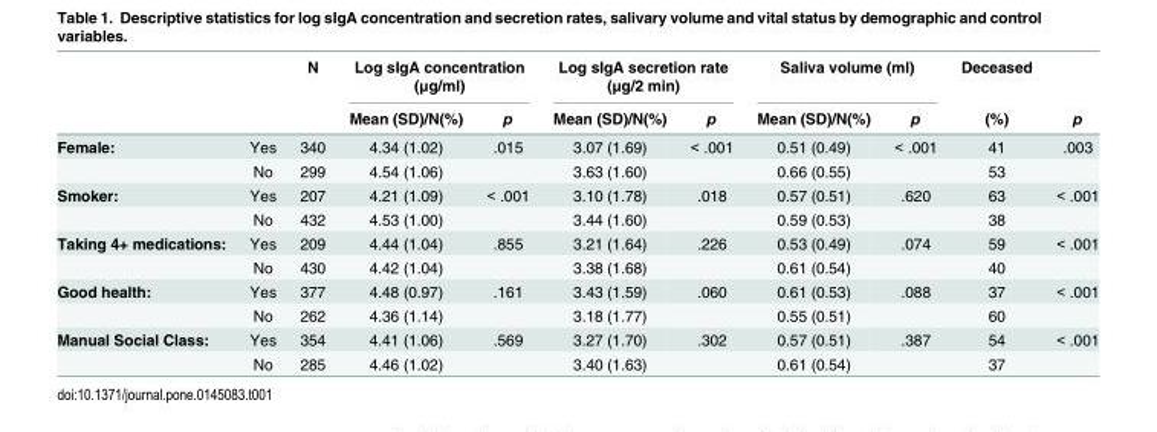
<table><thead><tr><td rowspan="2"></td><td rowspan="2"></td><td rowspan="2">N</td><td colspan="2">Log sIgA concentration (μg/ml)</td><td colspan="2">Log sIgA secretion rate (μg/2 min)</td><td colspan="2">Saliva volume (ml)</td><td rowspan="2">Deceased (%)</td><td rowspan="2">p</td></tr><tr><td>Mean (SD)/N(%)</td><td>p</td><td>Mean (SD)/N(%)</td><td>p</td><td>Mean (SD)/N(%)</td><td>p</td></tr></thead><tbody><tr><td rowspan="2">Female:</td><td>Yes</td><td>340</td><td>4.34 (1.02)</td><td>.015</td><td>3.07 (1.69)</td><td>&lt; .001</td><td>0.51 (0.49)</td><td>&lt; .001</td><td>41</td><td>.003</td></tr><tr><td>No</td><td>299</td><td>4.54 (1.06)</td><td></td><td>3.63 (1.60)</td><td></td><td>0.66 (0.55)</td><td></td><td>53</td><td></td></tr><tr><td rowspan="2">Smoker:</td><td>Yes</td><td>207</td><td>4.21 (1.09)</td><td>&lt; .001</td><td>3.10 (1.78)</td><td>.018</td><td>0.57 (0.51)</td><td>.620</td><td>63</td><td>&lt; .001</td></tr><tr><td>No</td><td>432</td><td>4.53 (1.00)</td><td></td><td>3.44 (1.60)</td><td></td><td>0.59 (0.53)</td><td></td><td>38</td><td></td></tr><tr><td rowspan="2">Taking 4+ medications:</td><td>Yes</td><td>209</td><td>4.44 (1.04)</td><td>.855</td><td>3.21 (1.64)</td><td>.226</td><td>0.53 (0.49)</td><td>.074</td><td>59</td><td>&lt; .001</td></tr><tr><td>No</td><td>430</td><td>4.42 (1.04)</td><td></td><td>3.38 (1.68)</td><td></td><td>0.61 (0.54)</td><td></td><td>40</td><td></td></tr><tr><td rowspan="2">Good health:</td><td>Yes</td><td>377</td><td>4.48 (0.97)</td><td>.161</td><td>3.43 (1.59)</td><td>.060</td><td>0.61 (0.53)</td><td>.088</td><td>37</td><td>&lt; .001</td></tr><tr><td>No</td><td>262</td><td>4.36 (1.14)</td><td></td><td>3.18 (1.77)</td><td></td><td>0.55 (0.51)</td><td></td><td>60</td><td></td></tr><tr><td rowspan="2">Manual Social Class:</td><td>Yes</td><td>354</td><td>4.41 (1.06)</td><td>.569</td><td>3.27 (1.70)</td><td>.302</td><td>0.57 (0.51)</td><td>.387</td><td>54</td><td>&lt; .001</td></tr><tr><td>No</td><td>285</td><td>4.46 (1.02)</td><td></td><td>3.40 (1.63)</td><td></td><td>0.61 (0.54)</td><td></td><td>37</td><td></td></tr></tbody></table>